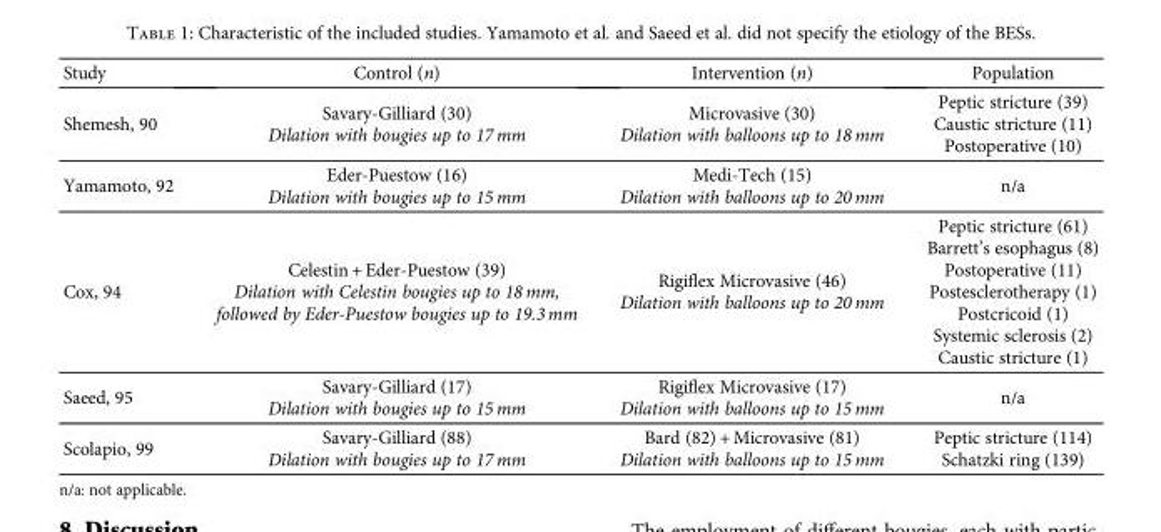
<table><thead><tr><td>Study</td><td>Control (n)</td><td>Intervention (n)</td><td>Population</td></tr></thead><tbody><tr><td>Shemesh, 90</td><td>Savary-Gilliard (30) Dilation with bougies up to 17 mm</td><td>Microvasive (30) Dilation with balloons up to 18 mm</td><td>Peptic stricture (39) Caustic stricture (11) Postoperative (10)</td></tr><tr><td>Yamamoto, 92</td><td>Eder-Puestow (16) Dilation with bougies up to 15 mm</td><td>Medi-Tech (15) Dilation with balloons up to 20 mm</td><td>n/a</td></tr><tr><td>Cox, 94</td><td>Celestin + Eder-Puestow (39) Dilation with Celestin bougies up to 18 mm, followed by Eder-Puestow bougies up to 19.3 mm</td><td>Rigiflex Microvasive (46) Dilation with balloons up to 20 mm</td><td>Peptic stricture (61) Barrett’s esophagus (8) Postoperative (11) Postesclerotherapy (1) Postcricoid (1) Systemic sclerosis (2) Caustic stricture (1)</td></tr><tr><td>Saeed, 95</td><td>Savary-Gilliard (17) Dilation with bougies up to 15 mm</td><td>Rigiflex Microvasive (17) Dilation with balloons up to 15 mm</td><td>n/a</td></tr><tr><td>Scolapio, 99</td><td>Savary-Gilliard (88) Dilation with bougies up to 17 mm</td><td>Bard (82) + Microvasive (81) Dilation with balloons up to 15 mm</td><td>Peptic stricture (114) Schatzki ring (139)</td></tr></tbody></table>